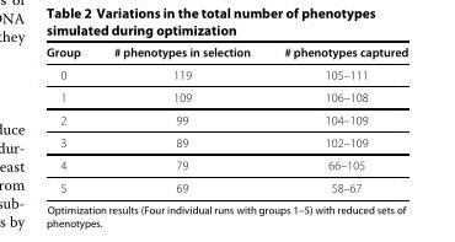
<table><thead><tr><td>Group</td><td># phenotypes in selection</td><td># phenotypes captured</td></tr></thead><tbody><tr><td>0</td><td>119</td><td>105–111</td></tr><tr><td>1</td><td>109</td><td>106–108</td></tr><tr><td>2</td><td>99</td><td>104–109</td></tr><tr><td>3</td><td>89</td><td>102–109</td></tr><tr><td>4</td><td>79</td><td>66–105</td></tr><tr><td>5</td><td>69</td><td>58–67</td></tr></tbody></table>